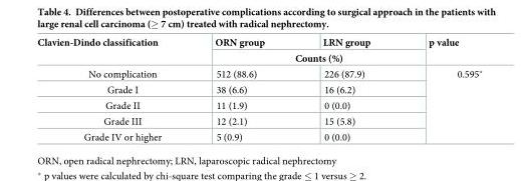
<table><thead><tr><td rowspan="2">Clavien-Dindo classification</td><td>ORN group</td><td>LRN group</td><td rowspan="2">p value</td></tr><tr><td colspan="2">Counts (%)</td></tr></thead><tbody><tr><td>No complication</td><td>512 (88.6)</td><td>226 (87.9)</td><td rowspan="5">0.595*</td></tr><tr><td>Grade I</td><td>38 (6.6)</td><td>16 (6.2)</td></tr><tr><td>Grade II</td><td>11 (1.9)</td><td>0 (0.0)</td></tr><tr><td>Grade III</td><td>12 (2.1)</td><td>15 (5.8)</td></tr><tr><td>Grade IV or higher</td><td>5 (0.9)</td><td>0 (0.0)</td></tr></tbody></table>